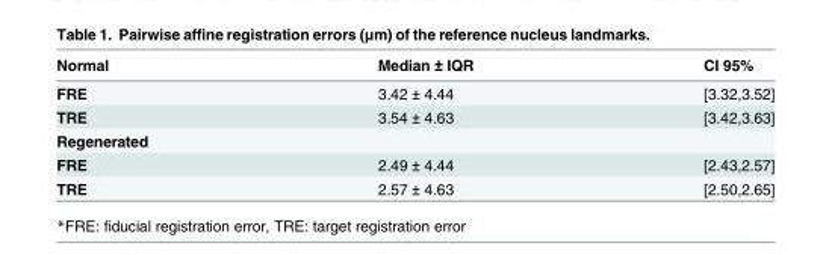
<table><thead><tr><td>Normal</td><td>Median ± IQR</td><td>CI 95%</td></tr></thead><tbody><tr><td>FRE</td><td>3.42 ± 4.44</td><td>[3.32,3.52]</td></tr><tr><td>TRE</td><td>3.54 ± 4.63</td><td>[3.42,3.63]</td></tr><tr><td colspan="3">Regenerated</td></tr><tr><td>FRE</td><td>2.49 ± 4.44</td><td>[2.43,2.57]</td></tr><tr><td>TRE</td><td>2.57 ± 4.63</td><td>[2.50,2.65]</td></tr></tbody></table>